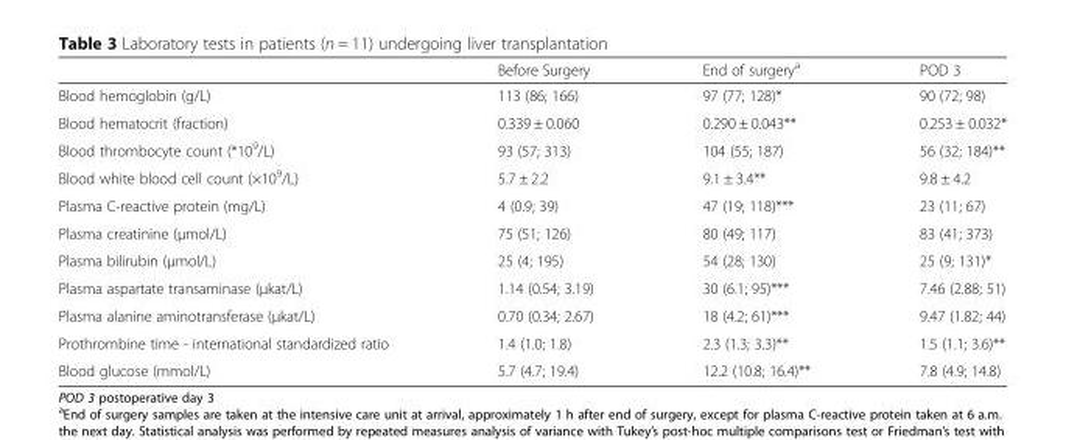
<table><thead><tr><td></td><td>Before Surgery</td><td>End of surgery<sup>a</sup></td><td>POD 3</td></tr></thead><tbody><tr><td>Blood hemoglobin (g/L)</td><td>113 (86; 166)</td><td>97 (77; 128)*</td><td>90 (72; 98)</td></tr><tr><td>Blood hematocrit (fraction)</td><td>0.339 ± 0.060</td><td>0.290 ± 0.043**</td><td>0.253 ± 0.032*</td></tr><tr><td>Blood thrombocyte count (*10<sup>9</sup>/L)</td><td>93 (57; 313)</td><td>104 (55; 187)</td><td>56 (32; 184)**</td></tr><tr><td>Blood white blood cell count (×10<sup>9</sup>/L)</td><td>5.7 ± 2.2</td><td>9.1 ± 3.4**</td><td>9.8 ± 4.2</td></tr><tr><td>Plasma C-reactive protein (mg/L)</td><td>4 (0.9; 39)</td><td>47 (19; 118)***</td><td>23 (11; 67)</td></tr><tr><td>Plasma creatinine (μmol/L)</td><td>75 (51; 126)</td><td>80 (49; 117)</td><td>83 (41; 373)</td></tr><tr><td>Plasma bilirubin (μmol/L)</td><td>25 (4; 195)</td><td>54 (28; 130)</td><td>25 (9; 131)*</td></tr><tr><td>Plasma aspartate transaminase (μkat/L)</td><td>1.14 (0.54; 3.19)</td><td>30 (6.1; 95)***</td><td>7.46 (2.88; 51)</td></tr><tr><td>Plasma alanine aminotransferase (μkat/L)</td><td>0.70 (0.34; 2.67)</td><td>18 (4.2; 61)***</td><td>9.47 (1.82; 44)</td></tr><tr><td>Prothrombine time - international standardized ratio</td><td>1.4 (1.0; 1.8)</td><td>2.3 (1.3; 3.3)**</td><td>1.5 (1.1; 3.6)**</td></tr><tr><td>Blood glucose (mmol/L)</td><td>5.7 (4.7; 19.4)</td><td>12.2 (10.8; 16.4)**</td><td>7.8 (4.9; 14.8)</td></tr></tbody></table>